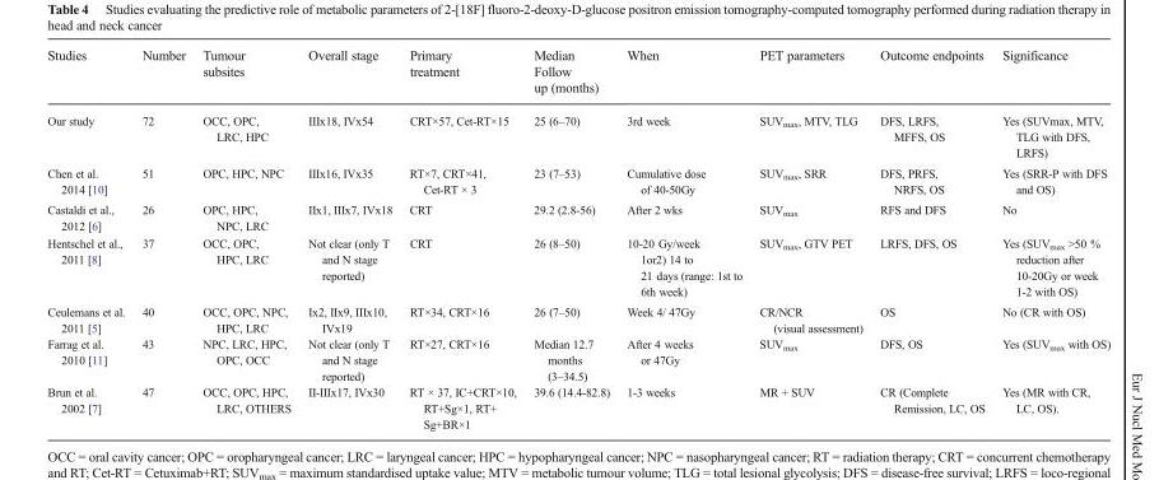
<table><thead><tr><td>Studies</td><td>Number</td><td>Tumour subsites</td><td>Overall stage</td><td>Primary treatment</td><td>Median Follow up (months)</td><td>When</td><td>PET parameters</td><td>Outcome endpoints</td><td>Significance</td></tr></thead><tbody><tr><td>Our study</td><td>72</td><td>OCC, OPC, LRC, HPC</td><td>IIIx18, IVx54</td><td>CRT×57, Cet-RT×15</td><td>25 (6–70)</td><td>3rd week</td><td>SUV<sub>max</sub>, MTV, TLG</td><td>DFS, LRFS, MFFS, OS</td><td>Yes (SUVmax, MTV, TLG with DFS, LRFS)</td></tr><tr><td>Chen et al. 2014 [10]</td><td>51</td><td>OPC, HPC, NPC</td><td>IIIx16, IVx35</td><td>RT×7, CRT×41, Cet-RT × 3</td><td>23 (7–53)</td><td>Cumulative dose of 40-50Gy</td><td>SUV<sub>max</sub>, SRR</td><td>DFS, PRFS, NRFS, OS</td><td>Yes (SRR-P with DFS and OS)</td></tr><tr><td>Castaldi et al., 2012 [6]</td><td>26</td><td>OPC, HPC, NPC, LRC</td><td>IIx1, IIIx7, IVx18</td><td>CRT</td><td>29.2 (2.8-56)</td><td>After 2 wks</td><td>SUV<sub>max</sub></td><td>RFS and DFS</td><td>No</td></tr><tr><td>Hentschel et al., 2011 [8]</td><td>37</td><td>OCC, OPC, HPC, LRC</td><td>Not clear (only T and N stage reported)</td><td>CRT</td><td>26 (8–50)</td><td>10-20 Gy/week 1or2) 14 to 21 days (range: 1st to 6th week)</td><td>SUV<sub>max</sub>, GTV PET</td><td>LRFS, DFS, OS</td><td>Yes (SUV<sub>max</sub> &gt;50 % reduction after 10-20Gy or week 1-2 with OS)</td></tr><tr><td>Ceulemans et al. 2011 [5]</td><td>40</td><td>OCC, OPC, NPC, HPC, LRC</td><td>Ix2, IIx9, IIIx10, IVx19</td><td>RT×34, CRT×16</td><td>26 (7–50)</td><td>Week 4/ 47Gy</td><td>CR/NCR (visual assessment)</td><td>OS</td><td>No (CR with OS)</td></tr><tr><td>Farrag et al. 2010 [11]</td><td>43</td><td>NPC, LRC, HPC, OPC, OCC</td><td>Not clear (only T and N stage reported)</td><td>RT×27, CRT×16</td><td>Median 12.7 months (3–34.5)</td><td>After 4 weeks or 47Gy</td><td>SUV<sub>max</sub></td><td>DFS, OS</td><td>Yes (SUV<sub>max</sub> with OS)</td></tr><tr><td>Brun et al. 2002 [7]</td><td>47</td><td>OCC, OPC, HPC, LRC, OTHERS</td><td>II-IIIx17, IVx30</td><td>RT × 37, IC+CRT×10, RT+Sg×1, RT+ Sg+BR×1</td><td>39.6 (14.4-82.8)</td><td>1-3 weeks</td><td>MR + SUV</td><td>CR (Complete Remission, LC, OS</td><td>Yes (MR with CR, LC, OS).</td></tr></tbody></table>